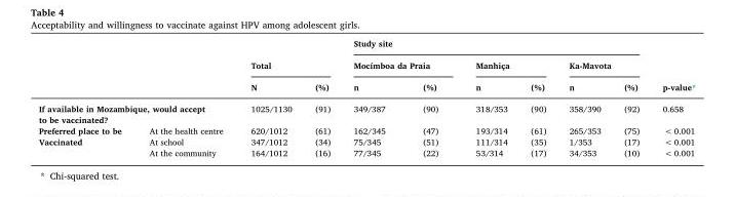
<table><thead><tr><td rowspan="3"></td><td rowspan="3"></td><td></td><td></td><td colspan="6">Study site</td><td rowspan="3">p-value*</td></tr><tr><td colspan="2">Total</td><td colspan="2">Mocímboa da Praia</td><td colspan="2">Manhiça</td><td colspan="2">Ka-Mavota</td></tr><tr><td>N</td><td>(%)</td><td>n</td><td>(%)</td><td>n</td><td>(%)</td><td>n</td><td>(%)</td></tr></thead><tbody><tr><td colspan="2">If available in Mozambique, would accept</td><td>1025/1130</td><td>(91)</td><td>349/387</td><td>(90)</td><td>318/353</td><td>(90)</td><td>358/390</td><td>(92)</td><td>0.658</td></tr><tr><td colspan="11">to be vaccinated?</td></tr><tr><td>Preferred place to be</td><td>At the health centre</td><td>620/1012</td><td>(61)</td><td>162/345</td><td>(47)</td><td>193/314</td><td>(61)</td><td>265/353</td><td>(75)</td><td>&lt; 0.001</td></tr><tr><td rowspan="2">Vaccinated</td><td>At school</td><td>347/1012</td><td>(34)</td><td>75/345</td><td>(51)</td><td>111/314</td><td>(35)</td><td>1/353</td><td>(17)</td><td>&lt; 0.001</td></tr><tr><td>At the community</td><td>164/1012</td><td>(16)</td><td>77/345</td><td>(22)</td><td>53/314</td><td>(17)</td><td>34/353</td><td>(10)</td><td>&lt; 0.001</td></tr></tbody></table>